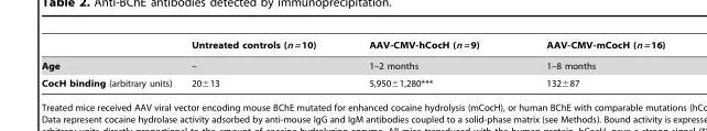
<table><thead><tr><td></td><td>Untreated controls (n = 10)</td><td>AAV-CMV-hCocH (n = 9)</td><td>AAV-CMV-mCocH (n = 16)</td></tr></thead><tbody><tr><td>Age</td><td>–</td><td>1–2 months</td><td>1–8 months</td></tr><tr><td>CocH binding (arbitrary units)</td><td>20±13</td><td>5,950±1,280***</td><td>132±87</td></tr></tbody></table>